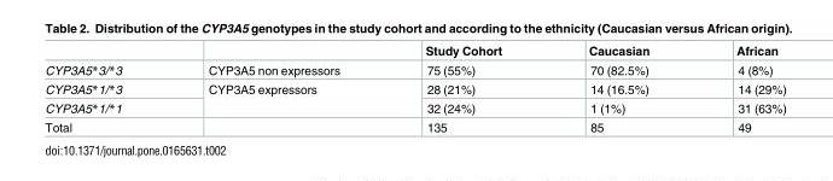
<table><thead><tr><td></td><td></td><td>Study Cohort</td><td>Caucasian</td><td>African</td></tr></thead><tbody><tr><td>CYP3A5*3/*3</td><td>CYP3A5 non expressors</td><td>75 (55%)</td><td>70 (82.5%)</td><td>4 (8%)</td></tr><tr><td>CYP3A5*1/*3</td><td rowspan="2">CYP3A5 expressors</td><td>28 (21%)</td><td>14 (16.5%)</td><td>14 (29%)</td></tr><tr><td>CYP3A5*1/*1</td><td>32 (24%)</td><td>1 (1%)</td><td>31 (63%)</td></tr><tr><td>Total</td><td></td><td>135</td><td>85</td><td>49</td></tr></tbody></table>